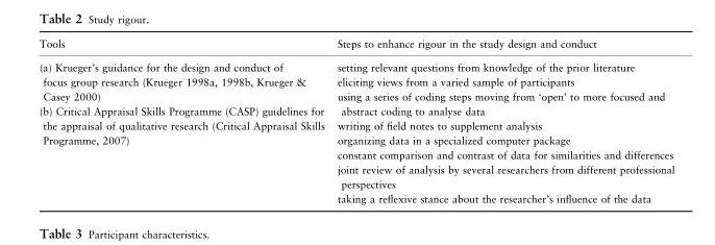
<table><thead><tr><td>Tools</td><td>Steps to enhance rigour in the study design and conduct</td></tr></thead><tbody><tr><td>(a) Krueger’s guidance for the design and conduct of focus group research (Krueger 1998a, 1998b, Krueger &amp; Casey 2000)</td><td rowspan="2">setting relevant questions from knowledge of the prior literature eliciting views from a varied sample of participants using a series of coding steps moving from ‘open’ to more focused and abstract coding to analyse data writing of field notes to supplement analysis organizing data in a specialized computer package constant comparison and contrast of data for similarities and differences joint review of analysis by several researchers from different professional perspectives taking a reflexive stance about the researcher’s influence of the data</td></tr><tr><td>(b) Critical Appraisal Skills Programme (CASP) guidelines for the appraisal of qualitative research (Critical Appraisal Skills Programme, 2007)</td></tr></tbody></table>